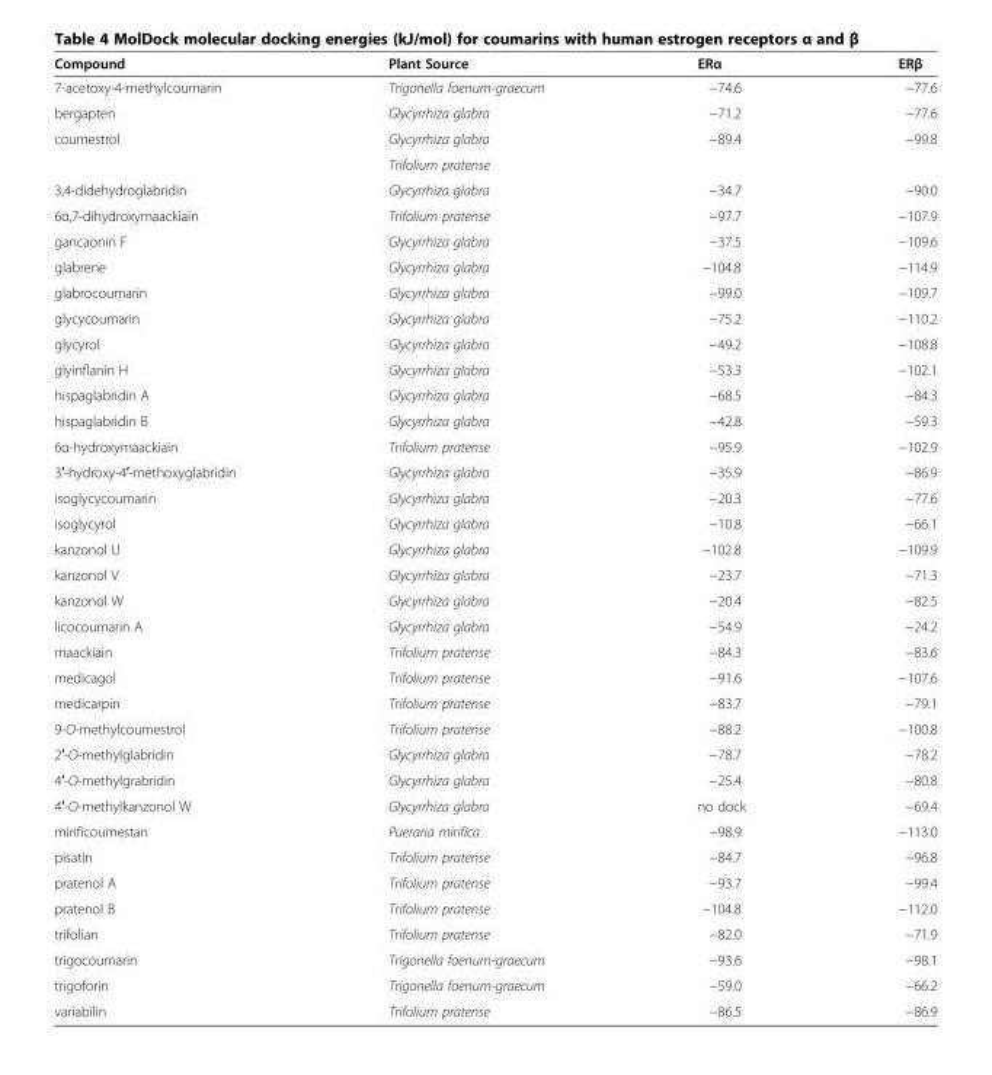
<table><thead><tr><td>Compound</td><td>Plant Source</td><td>ERα</td><td>ERβ</td></tr></thead><tbody><tr><td>7-acetoxy-4-methylcoumarin</td><td>Trigonella foenum-graecum</td><td>−74.6</td><td>−77.6</td></tr><tr><td>bergapten</td><td>Glycyrrhiza glabra</td><td>−71.2</td><td>−77.6</td></tr><tr><td rowspan="2">coumestrol</td><td>Glycyrrhiza glabra</td><td rowspan="2">−89.4</td><td rowspan="2">−99.8</td></tr><tr><td>Trifolium pratense</td></tr><tr><td>3,4-didehydroglabridin</td><td>Glycyrrhiza glabra</td><td>−34.7</td><td>−90.0</td></tr><tr><td>6α,7-dihydroxymaackiain</td><td>Trifolium pratense</td><td>−97.7</td><td>−107.9</td></tr><tr><td>gancaonin F</td><td>Glycyrrhiza glabra</td><td>−37.5</td><td>−109.6</td></tr><tr><td>glabrene</td><td>Glycyrrhiza glabra</td><td>−104.8</td><td>−114.9</td></tr><tr><td>glabrocoumarin</td><td>Glycyrrhiza glabra</td><td>−99.0</td><td>−109.7</td></tr><tr><td>glycycoumarin</td><td>Glycyrrhiza glabra</td><td>−75.2</td><td>−110.2</td></tr><tr><td>glycyrol</td><td>Glycyrrhiza glabra</td><td>−49.2</td><td>−108.8</td></tr><tr><td>glyinflanin H</td><td>Glycyrrhiza glabra</td><td>−53.3</td><td>−102.1</td></tr><tr><td>hispaglabridin A</td><td>Glycyrrhiza glabra</td><td>−68.5</td><td>−84.3</td></tr><tr><td>hispaglabridin B</td><td>Glycyrrhiza glabra</td><td>−42.8</td><td>−59.3</td></tr><tr><td>6α-hydroxymaackiain</td><td>Trifolium pratense</td><td>−95.9</td><td>−102.9</td></tr><tr><td>3′-hydroxy-4′-methoxyglabridin</td><td>Glycyrrhiza glabra</td><td>−35.9</td><td>−86.9</td></tr><tr><td>isoglycycoumarin</td><td>Glycyrrhiza glabra</td><td>−20.3</td><td>−77.6</td></tr><tr><td>isoglycyrol</td><td>Glycyrrhiza glabra</td><td>−10.8</td><td>−66.1</td></tr><tr><td>kanzonol U</td><td>Glycyrrhiza glabra</td><td>−102.8</td><td>−109.9</td></tr><tr><td>kanzonol V</td><td>Glycyrrhiza glabra</td><td>−23.7</td><td>−71.3</td></tr><tr><td>kanzonol W</td><td>Glycyrrhiza glabra</td><td>−20.4</td><td>−82.5</td></tr><tr><td>licocoumarin A</td><td>Glycyrrhiza glabra</td><td>−54.9</td><td>−24.2</td></tr><tr><td>maackiain</td><td>Trifolium pratense</td><td>−84.3</td><td>−83.6</td></tr><tr><td>medicagol</td><td>Trifolium pratense</td><td>−91.6</td><td>−107.6</td></tr><tr><td>medicarpin</td><td>Trifolium pratense</td><td>−83.7</td><td>−79.1</td></tr><tr><td>9-O-methylcoumestrol</td><td>Trifolium pratense</td><td>−88.2</td><td>−100.8</td></tr><tr><td>2′-O-methylglabridin</td><td>Glycyrrhiza glabra</td><td>−78.7</td><td>−78.2</td></tr><tr><td>4′-O-methylgrabridin</td><td>Glycyrrhiza glabra</td><td>−25.4</td><td>−80.8</td></tr><tr><td>4′-O-methylkanzonol W</td><td>Glycyrrhiza glabra</td><td>no dock</td><td>−69.4</td></tr><tr><td>mirificoumestan</td><td>Pueraria mirifica</td><td>−98.9</td><td>−113.0</td></tr><tr><td>pisatin</td><td>Trifolium pratense</td><td>−84.7</td><td>−96.8</td></tr><tr><td>pratenol A</td><td>Trifolium pratense</td><td>−93.7</td><td>−99.4</td></tr><tr><td>pratenol B</td><td>Trifolium pratense</td><td>−104.8</td><td>−112.0</td></tr><tr><td>trifolian</td><td>Trifolium pratense</td><td>−82.0</td><td>−71.9</td></tr><tr><td>trigocoumarin</td><td>Trigonella foenum-graecum</td><td>−93.6</td><td>−98.1</td></tr><tr><td>trigoforin</td><td>Trigonella foenum-graecum</td><td>−59.0</td><td>−66.2</td></tr><tr><td>variabilin</td><td>Trifolium pratense</td><td>−86.5</td><td>−86.9</td></tr></tbody></table>